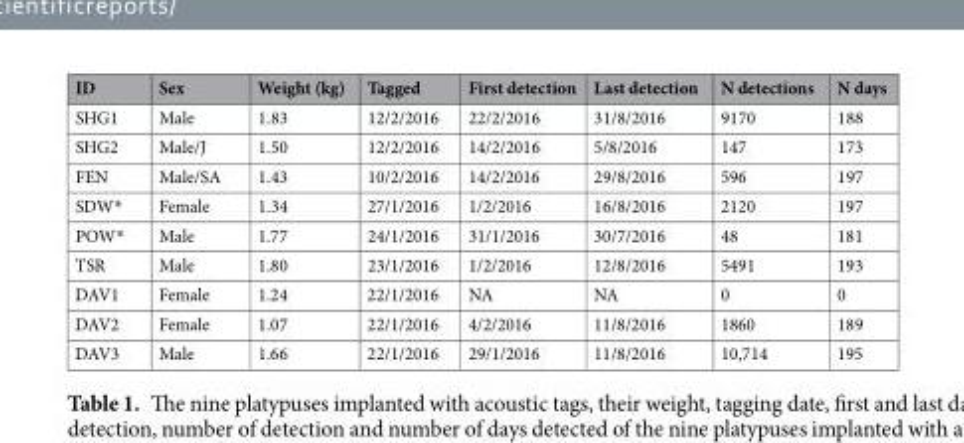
<table><thead><tr><td>ID</td><td>Sex</td><td>Weight (kg)</td><td>Tagged</td><td>First detection</td><td>Last detection</td><td>N detections</td><td>N days</td></tr></thead><tbody><tr><td>SHG1</td><td>Male</td><td>1.83</td><td>12/2/2016</td><td>22/2/2016</td><td>31/8/2016</td><td>9170</td><td>188</td></tr><tr><td>SHG2</td><td>Male/J</td><td>1.50</td><td>12/2/2016</td><td>14/2/2016</td><td>5/8/2016</td><td>147</td><td>173</td></tr><tr><td>FEN</td><td>Male/SA</td><td>1.43</td><td>10/2/2016</td><td>14/2/2016</td><td>29/8/2016</td><td>596</td><td>197</td></tr><tr><td>SDW*</td><td>Female</td><td>1.34</td><td>27/1/2016</td><td>1/2/2016</td><td>16/8/2016</td><td>2120</td><td>197</td></tr><tr><td>POW*</td><td>Male</td><td>1.77</td><td>24/1/2016</td><td>31/1/2016</td><td>30/7/2016</td><td>48</td><td>181</td></tr><tr><td>TSR</td><td>Male</td><td>1.80</td><td>23/1/2016</td><td>1/2/2016</td><td>12/8/2016</td><td>5491</td><td>193</td></tr><tr><td>DAV1</td><td>Female</td><td>1.24</td><td>22/1/2016</td><td>NA</td><td>NA</td><td>0</td><td>0</td></tr><tr><td>DAV2</td><td>Female</td><td>1.07</td><td>22/1/2016</td><td>4/2/2016</td><td>11/8/2016</td><td>1860</td><td>189</td></tr><tr><td>DAV3</td><td>Male</td><td>1.66</td><td>22/1/2016</td><td>29/1/2016</td><td>11/8/2016</td><td>10,714</td><td>195</td></tr></tbody></table>